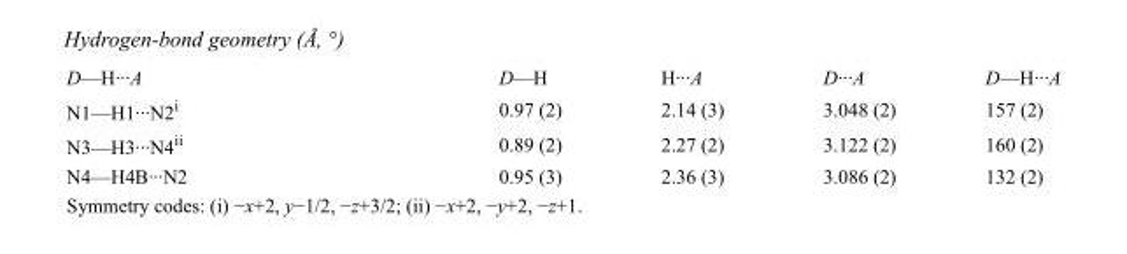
<table><tbody><tr><td>D—H···A</td><td>D—H</td><td>H···A</td><td>D···A</td><td>D—H···A</td></tr><tr><td>N1—H1···N2<sup>i</sup></td><td>0.97 (2)</td><td>2.14 (3)</td><td>3.048 (2)</td><td>157 (2)</td></tr><tr><td>N3—H3···N4<sup>ii</sup></td><td>0.89 (2)</td><td>2.27 (2)</td><td>3.122 (2)</td><td>160 (2)</td></tr><tr><td>N4—H4B···N2</td><td>0.95 (3)</td><td>2.36 (3)</td><td>3.086 (2)</td><td>132 (2)</td></tr></tbody></table>